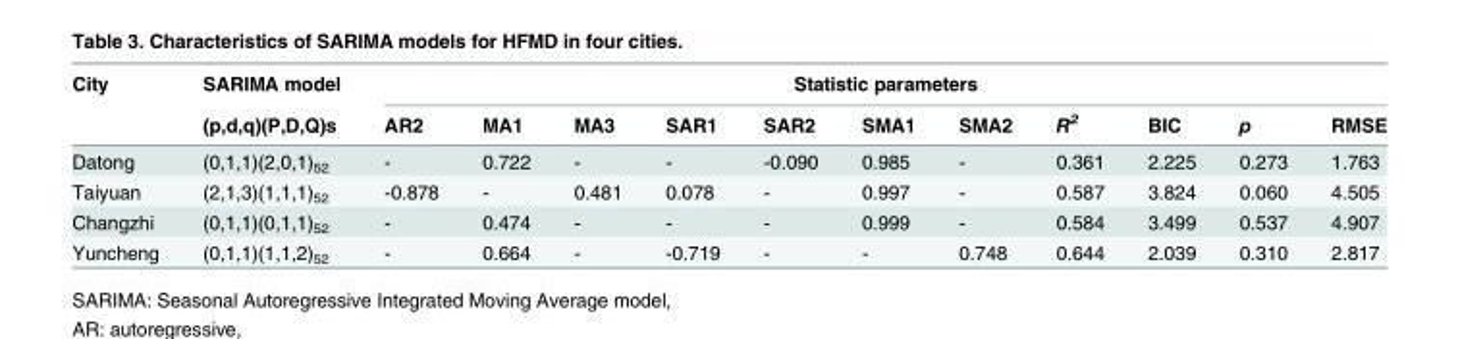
<table><thead><tr><td rowspan="2">City</td><td rowspan="2">SARIMA model (p,d,q)(P,D,Q)s</td><td colspan="11">Statistic parameters</td></tr><tr><td>AR2</td><td>MA1</td><td>MA3</td><td>SAR1</td><td>SAR2</td><td>SMA1</td><td>SMA2</td><td>R<sup>2</sup></td><td>BIC</td><td>p</td><td>RMSE</td></tr></thead><tbody><tr><td>Datong</td><td>(0,1,1)(2,0,1)<sub>52</sub></td><td>-</td><td>0.722</td><td>-</td><td>-</td><td>-0.090</td><td>0.985</td><td>-</td><td>0.361</td><td>2.225</td><td>0.273</td><td>1.763</td></tr><tr><td>Taiyuan</td><td>(2,1,3)(1,1,1)<sub>52</sub></td><td>-0.878</td><td>-</td><td>0.481</td><td>0.078</td><td>-</td><td>0.997</td><td>-</td><td>0.587</td><td>3.824</td><td>0.060</td><td>4.505</td></tr><tr><td>Changzhi</td><td>(0,1,1)(0,1,1)<sub>52</sub></td><td>-</td><td>0.474</td><td>-</td><td>-</td><td>-</td><td>0.999</td><td>-</td><td>0.584</td><td>3.499</td><td>0.537</td><td>4.907</td></tr><tr><td>Yuncheng</td><td>(0,1,1)(1,1,2)<sub>52</sub></td><td>-</td><td>0.664</td><td>-</td><td>-0.719</td><td>-</td><td>-</td><td>0.748</td><td>0.644</td><td>2.039</td><td>0.310</td><td>2.817</td></tr></tbody></table>